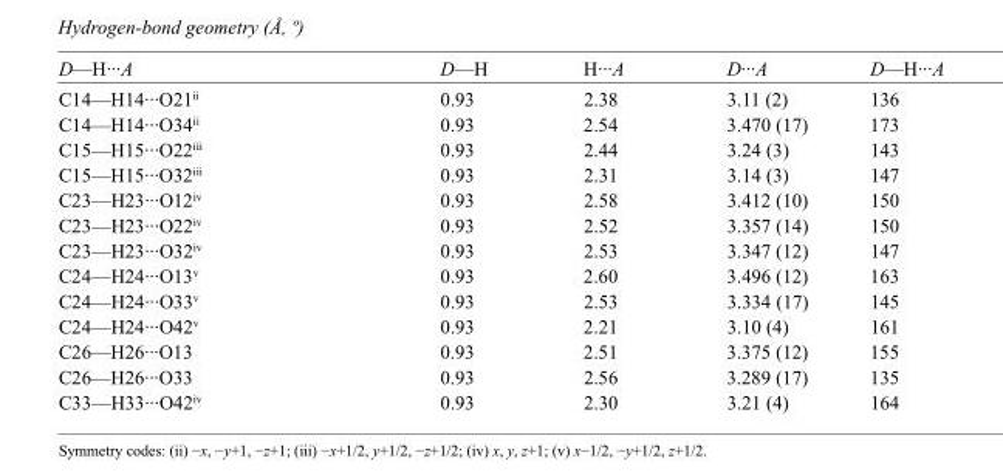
<table><tbody><tr><td>D—H···A</td><td>D—H</td><td>H···A</td><td>D···A</td><td>D—H···A</td></tr><tr><td>C14—H14···O21<sup>ii</sup></td><td>0.93</td><td>2.38</td><td>3.11 (2)</td><td>136</td></tr><tr><td>C14—H14···O34<sup>ii</sup></td><td>0.93</td><td>2.54</td><td>3.470 (17)</td><td>173</td></tr><tr><td>C15—H15···O22<sup>iii</sup></td><td>0.93</td><td>2.44</td><td>3.24 (3)</td><td>143</td></tr><tr><td>C15—H15···O32<sup>iii</sup></td><td>0.93</td><td>2.31</td><td>3.14 (3)</td><td>147</td></tr><tr><td>C23—H23···O12<sup>iv</sup></td><td>0.93</td><td>2.58</td><td>3.412 (10)</td><td>150</td></tr><tr><td>C23—H23···O22<sup>iv</sup></td><td>0.93</td><td>2.52</td><td>3.357 (14)</td><td>150</td></tr><tr><td>C23—H23···O32<sup>iv</sup></td><td>0.93</td><td>2.53</td><td>3.347 (12)</td><td>147</td></tr><tr><td>C24—H24···O13<sup>v</sup></td><td>0.93</td><td>2.60</td><td>3.496 (12)</td><td>163</td></tr><tr><td>C24—H24···O33<sup>v</sup></td><td>0.93</td><td>2.53</td><td>3.334 (17)</td><td>145</td></tr><tr><td>C24—H24···O42<sup>v</sup></td><td>0.93</td><td>2.21</td><td>3.10 (4)</td><td>161</td></tr><tr><td>C26—H26···O13</td><td>0.93</td><td>2.51</td><td>3.375 (12)</td><td>155</td></tr><tr><td>C26—H26···O33</td><td>0.93</td><td>2.56</td><td>3.289 (17)</td><td>135</td></tr><tr><td>C33—H33···O42<sup>iv</sup></td><td>0.93</td><td>2.30</td><td>3.21 (4)</td><td>164</td></tr></tbody></table>